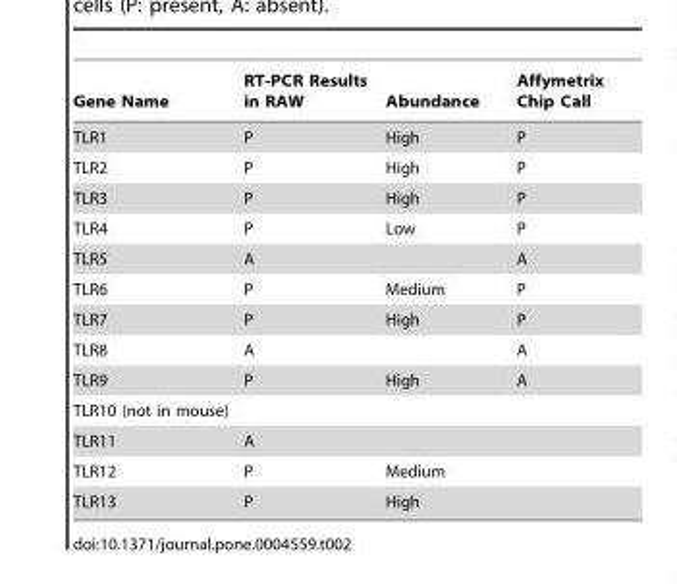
<table><thead><tr><td>Gene Name</td><td>RT-PCR Results in RAW</td><td>Abundance</td><td>Affymetrix Chip Call</td></tr></thead><tbody><tr><td>TLR1</td><td>P</td><td>High</td><td>P</td></tr><tr><td>TLR2</td><td>P</td><td>High</td><td>P</td></tr><tr><td>TLR3</td><td>P</td><td>High</td><td>P</td></tr><tr><td>TLR4</td><td>P</td><td>Low</td><td>P</td></tr><tr><td>TLR5</td><td>A</td><td></td><td>A</td></tr><tr><td>TLR6</td><td>P</td><td>Medium</td><td>P</td></tr><tr><td>TLR7</td><td>P</td><td>High</td><td>P</td></tr><tr><td>TLR8</td><td>A</td><td></td><td>A</td></tr><tr><td>TLR9</td><td>P</td><td>High</td><td>A</td></tr><tr><td colspan="4">TLR10 (not in mouse)</td></tr><tr><td>TLR11</td><td>A</td><td></td><td></td></tr><tr><td>TLR12</td><td>P</td><td>Medium</td><td></td></tr><tr><td>TLR13</td><td>P</td><td>High</td><td></td></tr></tbody></table>